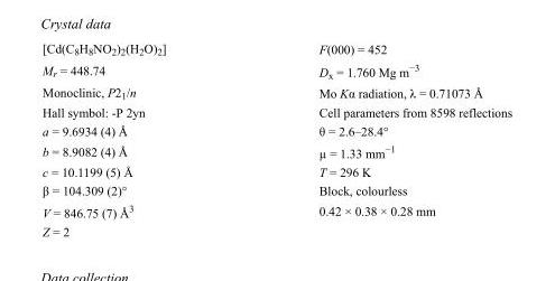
<table><tbody><tr><td>[Cd(C<sub>8</sub>H<sub>8</sub>NO<sub>2</sub>)<sub>2</sub>(H<sub>2</sub>O)<sub>2</sub>]</td><td>F(000) = 452</td></tr><tr><td>M<sub>r</sub> = 448.74</td><td>D<sub>x</sub> = 1.760 Mg m<sup>−3</sup></td></tr><tr><td>Monoclinic, P2<sub>1</sub>/n</td><td>Mo Kα radiation, λ = 0.71073 Å</td></tr><tr><td>Hall symbol: -P 2yn</td><td>Cell parameters from 8598 reflections</td></tr><tr><td>a = 9.6934 (4) Å</td><td>θ = 2.6–28.4°</td></tr><tr><td>b = 8.9082 (4) Å</td><td>µ = 1.33 mm<sup>−1</sup></td></tr><tr><td>c = 10.1199 (5) Å</td><td>T = 296 K</td></tr><tr><td>β = 104.309 (2)°</td><td>Block, colourless</td></tr><tr><td>V = 846.75 (7) Å<sup>3</sup></td><td>0.42 × 0.38 × 0.28 mm</td></tr><tr><td>Z = 2</td><td></td></tr></tbody></table>